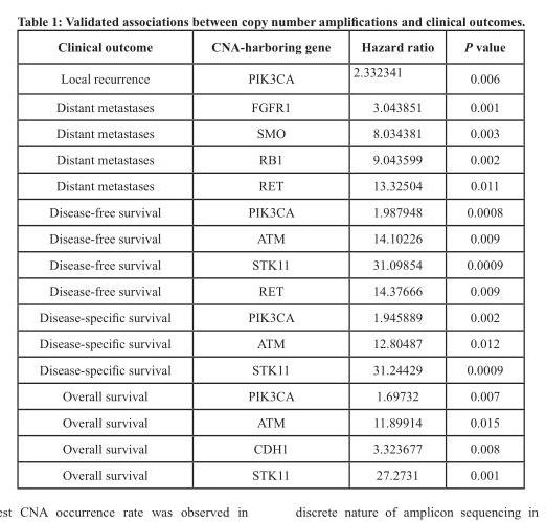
<table><thead><tr><td>Clinical outcome</td><td>CNA-harboring gene</td><td>Hazard ratio</td><td>P value</td></tr></thead><tbody><tr><td>Local recurrence</td><td>PIK3CA</td><td>2.332341</td><td>0.006</td></tr><tr><td>Distant metastases</td><td>FGFR1</td><td>3.043851</td><td>0.001</td></tr><tr><td>Distant metastases</td><td>SMO</td><td>8.034381</td><td>0.003</td></tr><tr><td>Distant metastases</td><td>RB1</td><td>9.043599</td><td>0.002</td></tr><tr><td>Distant metastases</td><td>RET</td><td>13.32504</td><td>0.011</td></tr><tr><td>Disease-free survival</td><td>PIK3CA</td><td>1.987948</td><td>0.0008</td></tr><tr><td>Disease-free survival</td><td>ATM</td><td>14.10226</td><td>0.009</td></tr><tr><td>Disease-free survival</td><td>STK11</td><td>31.09854</td><td>0.0009</td></tr><tr><td>Disease-free survival</td><td>RET</td><td>14.37666</td><td>0.009</td></tr><tr><td>Disease-specific survival</td><td>PIK3CA</td><td>1.945889</td><td>0.002</td></tr><tr><td>Disease-specific survival</td><td>ATM</td><td>12.80487</td><td>0.012</td></tr><tr><td>Disease-specific survival</td><td>STK11</td><td>31.24429</td><td>0.0009</td></tr><tr><td>Overall survival</td><td>PIK3CA</td><td>1.69732</td><td>0.007</td></tr><tr><td>Overall survival</td><td>ATM</td><td>11.89914</td><td>0.015</td></tr><tr><td>Overall survival</td><td>CDH1</td><td>3.323677</td><td>0.008</td></tr><tr><td>Overall survival</td><td>STK11</td><td>27.2731</td><td>0.001</td></tr></tbody></table>